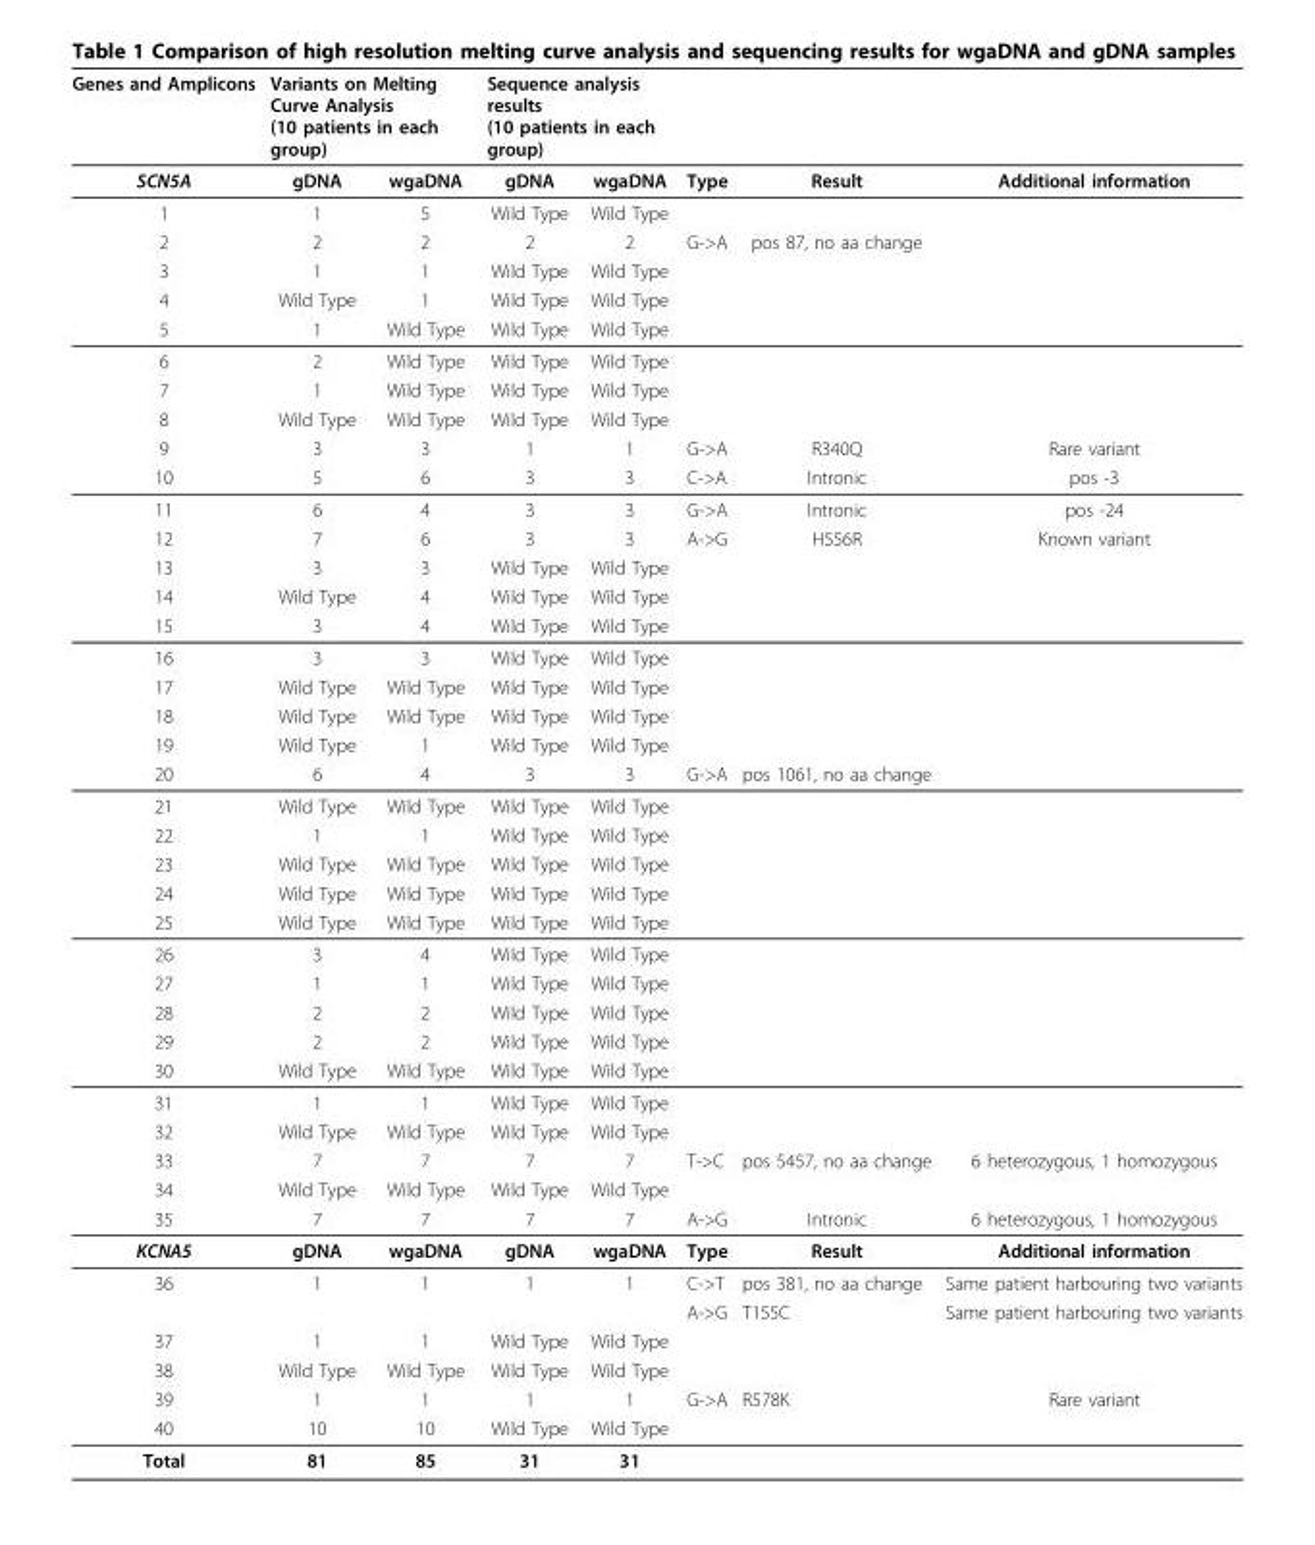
<table><thead><tr><td rowspan="2">Genes and Amplicons SCN5A</td><td colspan="2">Variants on Melting Curve Analysis (10 patients in each group)</td><td colspan="2">Sequence analysis results (10 patients in each group)</td><td rowspan="2">Type</td><td rowspan="2">Result</td><td rowspan="2">Additional information</td></tr><tr><td>gDNA</td><td>wgaDNA</td><td>gDNA</td><td>wgaDNA</td></tr></thead><tbody><tr><td>1</td><td>1</td><td>5</td><td>Wild Type</td><td>Wild Type</td><td></td><td></td><td></td></tr><tr><td>2</td><td>2</td><td>2</td><td>2</td><td>2</td><td>G-&gt;A</td><td>pos 87, no aa change</td><td></td></tr><tr><td>3</td><td>1</td><td>1</td><td>Wild Type</td><td>Wild Type</td><td></td><td></td><td></td></tr><tr><td>4</td><td>Wild Type</td><td>1</td><td>Wild Type</td><td>Wild Type</td><td></td><td></td><td></td></tr><tr><td>5</td><td>1</td><td>Wild Type</td><td>Wild Type</td><td>Wild Type</td><td></td><td></td><td></td></tr><tr><td>6</td><td>2</td><td>Wild Type</td><td>Wild Type</td><td>Wild Type</td><td></td><td></td><td></td></tr><tr><td>7</td><td>1</td><td>Wild Type</td><td>Wild Type</td><td>Wild Type</td><td></td><td></td><td></td></tr><tr><td>8</td><td>Wild Type</td><td>Wild Type</td><td>Wild Type</td><td>Wild Type</td><td></td><td></td><td></td></tr><tr><td>9</td><td>3</td><td>3</td><td>1</td><td>1</td><td>G-&gt;A</td><td>R340Q</td><td>Rare variant</td></tr><tr><td>10</td><td>5</td><td>6</td><td>3</td><td>3</td><td>C-&gt;A</td><td>Intronic</td><td>pos -3</td></tr><tr><td>11</td><td>6</td><td>4</td><td>3</td><td>3</td><td>G-&gt;A</td><td>Intronic</td><td>pos -24</td></tr><tr><td>12</td><td>7</td><td>6</td><td>3</td><td>3</td><td>A-&gt;G</td><td>H556R</td><td>Known variant</td></tr><tr><td>13</td><td>3</td><td>3</td><td>Wild Type</td><td>Wild Type</td><td></td><td></td><td></td></tr><tr><td>14</td><td>Wild Type</td><td>4</td><td>Wild Type</td><td>Wild Type</td><td></td><td></td><td></td></tr><tr><td>15</td><td>3</td><td>4</td><td>Wild Type</td><td>Wild Type</td><td></td><td></td><td></td></tr><tr><td>16</td><td>3</td><td>3</td><td>Wild Type</td><td>Wild Type</td><td></td><td></td><td></td></tr><tr><td>17</td><td>Wild Type</td><td>Wild Type</td><td>Wild Type</td><td>Wild Type</td><td></td><td></td><td></td></tr><tr><td>18</td><td>Wild Type</td><td>Wild Type</td><td>Wild Type</td><td>Wild Type</td><td></td><td></td><td></td></tr><tr><td>19</td><td>Wild Type</td><td>1</td><td>Wild Type</td><td>Wild Type</td><td></td><td></td><td></td></tr><tr><td>20</td><td>6</td><td>4</td><td>3</td><td>3</td><td>G-&gt;A</td><td>pos 1061, no aa change</td><td></td></tr><tr><td>21</td><td>Wild Type</td><td>Wild Type</td><td>Wild Type</td><td>Wild Type</td><td></td><td></td><td></td></tr><tr><td>22</td><td>1</td><td>1</td><td>Wild Type</td><td>Wild Type</td><td></td><td></td><td></td></tr><tr><td>23</td><td>Wild Type</td><td>Wild Type</td><td>Wild Type</td><td>Wild Type</td><td></td><td></td><td></td></tr><tr><td>24</td><td>Wild Type</td><td>Wild Type</td><td>Wild Type</td><td>Wild Type</td><td></td><td></td><td></td></tr><tr><td>25</td><td>Wild Type</td><td>Wild Type</td><td>Wild Type</td><td>Wild Type</td><td></td><td></td><td></td></tr><tr><td>26</td><td>3</td><td>4</td><td>Wild Type</td><td>Wild Type</td><td></td><td></td><td></td></tr><tr><td>27</td><td>1</td><td>1</td><td>Wild Type</td><td>Wild Type</td><td></td><td></td><td></td></tr><tr><td>28</td><td>2</td><td>2</td><td>Wild Type</td><td>Wild Type</td><td></td><td></td><td></td></tr><tr><td>29</td><td>2</td><td>2</td><td>Wild Type</td><td>Wild Type</td><td></td><td></td><td></td></tr><tr><td>30</td><td>Wild Type</td><td>Wild Type</td><td>Wild Type</td><td>Wild Type</td><td></td><td></td><td></td></tr><tr><td>31</td><td>1</td><td>1</td><td>Wild Type</td><td>Wild Type</td><td></td><td></td><td></td></tr><tr><td>32</td><td>Wild Type</td><td>Wild Type</td><td>Wild Type</td><td>Wild Type</td><td></td><td></td><td></td></tr><tr><td>33</td><td>7</td><td>7</td><td>7</td><td>7</td><td>T-&gt;C</td><td>pos 5457, no aa change</td><td>6 heterozygous, 1 homozygous</td></tr><tr><td>34</td><td>Wild Type</td><td>Wild Type</td><td>Wild Type</td><td>Wild Type</td><td></td><td></td><td></td></tr><tr><td>35</td><td>7</td><td>7</td><td>7</td><td>7</td><td>A-&gt;G</td><td>Intronic</td><td>6 heterozygous, 1 homozygous</td></tr><tr><td>KCNA5</td><td>gDNA</td><td>wgaDNA</td><td>gDNA</td><td>wgaDNA</td><td>Type</td><td>Result</td><td>Additional information</td></tr><tr><td rowspan="2">36</td><td>1</td><td>1</td><td>1</td><td>1</td><td>C-&gt;T</td><td>pos 381, no aa change</td><td>Same patient harbouring two variants</td></tr><tr><td></td><td></td><td></td><td></td><td>A-&gt;G</td><td>T155C</td><td>Same patient harbouring two variants</td></tr><tr><td>37</td><td>1</td><td>1</td><td>Wild Type</td><td>Wild Type</td><td></td><td></td><td></td></tr><tr><td>38</td><td>Wild Type</td><td>Wild Type</td><td>Wild Type</td><td>Wild Type</td><td></td><td></td><td></td></tr><tr><td>39</td><td>1</td><td>1</td><td>1</td><td>1</td><td>G-&gt;A</td><td>R578K</td><td>Rare variant</td></tr><tr><td>40</td><td>10</td><td>10</td><td>Wild Type</td><td>Wild Type</td><td></td><td></td><td></td></tr><tr><td>Total</td><td>81</td><td>85</td><td>31</td><td>31</td><td></td><td></td><td></td></tr></tbody></table>